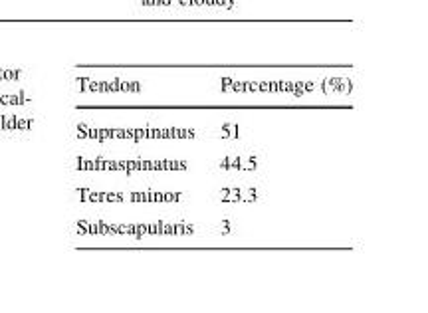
<table><thead><tr><td>Tendon</td><td>Percentage (%)</td></tr></thead><tbody><tr><td>Supraspinatus</td><td>51</td></tr><tr><td>Infraspinatus</td><td>44.5</td></tr><tr><td>Teres minor</td><td>23.3</td></tr><tr><td>Subscapularis</td><td>3</td></tr></tbody></table>